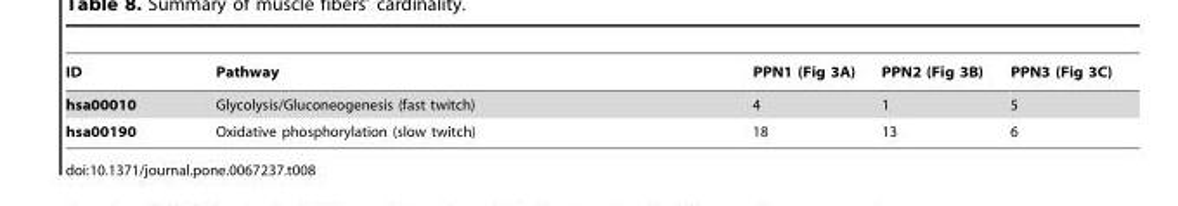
<table><thead><tr><td>ID</td><td>Pathway</td><td>PPN1 (Fig 3A)</td><td>PPN2 (Fig 3B)</td><td>PPN3 (Fig 3C)</td></tr></thead><tbody><tr><td>hsa00010</td><td>Glycolysis/Gluconeogenesis (fast twitch)</td><td>4</td><td>1</td><td>5</td></tr><tr><td>hsa00190</td><td>Oxidative phosphorylation (slow twitch)</td><td>18</td><td>13</td><td>6</td></tr></tbody></table>